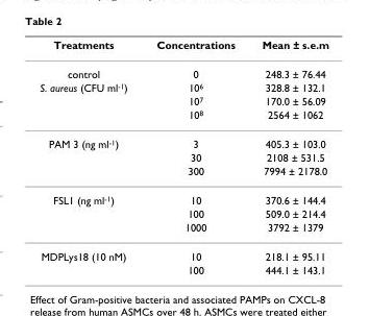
<table><thead><tr><td>Treatments</td><td>Concentrations</td><td>Mean ± s.e.m</td></tr></thead><tbody><tr><td>control</td><td>0</td><td>248.3 ± 76.44</td></tr><tr><td rowspan="3">S. aureus (CFU ml<sup>-1</sup>)</td><td>10<sup>6</sup></td><td>328.8 ± 132.1</td></tr><tr><td>10<sup>7</sup></td><td>170.0 ± 56.09</td></tr><tr><td>10<sup>8</sup></td><td>2564 ± 1062</td></tr><tr><td rowspan="3">PAM 3 (ng ml<sup>-1</sup>)</td><td>3</td><td>405.3 ± 103.0</td></tr><tr><td>30</td><td>2108 ± 531.5</td></tr><tr><td>300</td><td>7994 ± 2178.0</td></tr><tr><td rowspan="3">FSL1 (ng ml<sup>-1</sup>)</td><td>10</td><td>370.6 ± 144.4</td></tr><tr><td>100</td><td>509.0 ± 214.4</td></tr><tr><td>1000</td><td>3792 ± 1379</td></tr><tr><td rowspan="2">MDPLys18 (10 nM)</td><td>10</td><td>218.1 ± 95.11</td></tr><tr><td>100</td><td>444.1 ± 143.1</td></tr></tbody></table>